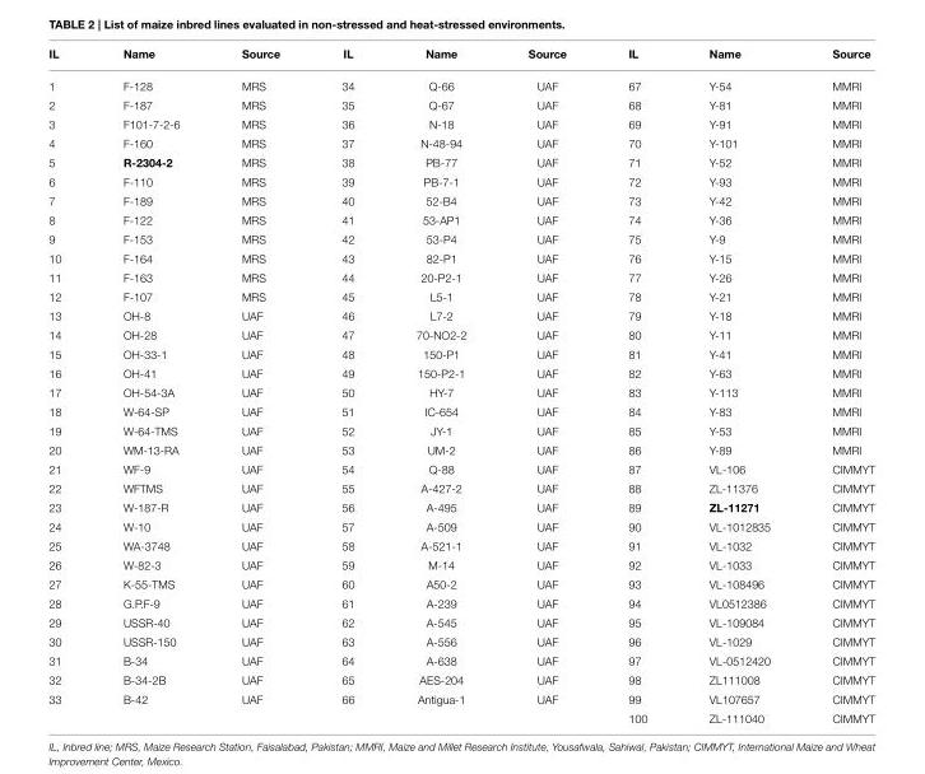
<table><thead><tr><td>IL</td><td>Name</td><td>Source</td><td>IL</td><td>Name</td><td>Source</td><td>IL</td><td>Name</td><td>Source</td></tr></thead><tbody><tr><td>1</td><td>F-128</td><td>MRS</td><td>34</td><td>Q-66</td><td>UAF</td><td>67</td><td>Y-54</td><td>MMRI</td></tr><tr><td>2</td><td>F-187</td><td>MRS</td><td>35</td><td>Q-67</td><td>UAF</td><td>68</td><td>Y-81</td><td>MMRI</td></tr><tr><td>3</td><td>F101-7-2-6</td><td>MRS</td><td>36</td><td>N-18</td><td>UAF</td><td>69</td><td>Y-91</td><td>MMRI</td></tr><tr><td>4</td><td>F-160</td><td>MRS</td><td>37</td><td>N-48-94</td><td>UAF</td><td>70</td><td>Y-101</td><td>MMRI</td></tr><tr><td>5</td><td>R-2304-2</td><td>MRS</td><td>38</td><td>PB-77</td><td>UAF</td><td>71</td><td>Y-52</td><td>MMRI</td></tr><tr><td>6</td><td>F-110</td><td>MRS</td><td>39</td><td>PB-7-1</td><td>UAF</td><td>72</td><td>Y-93</td><td>MMRI</td></tr><tr><td>7</td><td>F-189</td><td>MRS</td><td>40</td><td>52-B4</td><td>UAF</td><td>73</td><td>Y-42</td><td>MMRI</td></tr><tr><td>8</td><td>F-122</td><td>MRS</td><td>41</td><td>53-AP1</td><td>UAF</td><td>74</td><td>Y-36</td><td>MMRI</td></tr><tr><td>9</td><td>F-153</td><td>MRS</td><td>42</td><td>53-P4</td><td>UAF</td><td>75</td><td>Y-9</td><td>MMRI</td></tr><tr><td>10</td><td>F-164</td><td>MRS</td><td>43</td><td>82-P1</td><td>UAF</td><td>76</td><td>Y-15</td><td>MMRI</td></tr><tr><td>11</td><td>F-163</td><td>MRS</td><td>44</td><td>20-P2-1</td><td>UAF</td><td>77</td><td>Y-26</td><td>MMRI</td></tr><tr><td>12</td><td>F-107</td><td>MRS</td><td>45</td><td>L5-1</td><td>UAF</td><td>78</td><td>Y-21</td><td>MMRI</td></tr><tr><td>13</td><td>OH-8</td><td>UAF</td><td>46</td><td>L7-2</td><td>UAF</td><td>79</td><td>Y-18</td><td>MMRI</td></tr><tr><td>14</td><td>OH-28</td><td>UAF</td><td>47</td><td>70-NO2-2</td><td>UAF</td><td>80</td><td>Y-11</td><td>MMRI</td></tr><tr><td>15</td><td>OH-33-1</td><td>UAF</td><td>48</td><td>150-P1</td><td>UAF</td><td>81</td><td>Y-41</td><td>MMRI</td></tr><tr><td>16</td><td>OH-41</td><td>UAF</td><td>49</td><td>150-P2-1</td><td>UAF</td><td>82</td><td>Y-63</td><td>MMRI</td></tr><tr><td>17</td><td>OH-54-3A</td><td>UAF</td><td>50</td><td>HY-7</td><td>UAF</td><td>83</td><td>Y-113</td><td>MMRI</td></tr><tr><td>18</td><td>W-64-SP</td><td>UAF</td><td>51</td><td>IC-654</td><td>UAF</td><td>84</td><td>Y-83</td><td>MMRI</td></tr><tr><td>19</td><td>W-64-TMS</td><td>UAF</td><td>52</td><td>JY-1</td><td>UAF</td><td>85</td><td>Y-53</td><td>MMRI</td></tr><tr><td>20</td><td>WM-13-RA</td><td>UAF</td><td>53</td><td>UM-2</td><td>UAF</td><td>86</td><td>Y-89</td><td>MMRI</td></tr><tr><td>21</td><td>WF-9</td><td>UAF</td><td>54</td><td>Q-88</td><td>UAF</td><td>87</td><td>VL-106</td><td>CIMMYT</td></tr><tr><td>22</td><td>WFTMS</td><td>UAF</td><td>55</td><td>A-427-2</td><td>UAF</td><td>88</td><td>ZL-11376</td><td>CIMMYT</td></tr><tr><td>23</td><td>W-187-R</td><td>UAF</td><td>56</td><td>A-495</td><td>UAF</td><td>89</td><td>ZL-11271</td><td>CIMMYT</td></tr><tr><td>24</td><td>W-10</td><td>UAF</td><td>57</td><td>A-509</td><td>UAF</td><td>90</td><td>VL-1012835</td><td>CIMMYT</td></tr><tr><td>25</td><td>WA-3748</td><td>UAF</td><td>58</td><td>A-521-1</td><td>UAF</td><td>91</td><td>VL-1032</td><td>CIMMYT</td></tr><tr><td>26</td><td>W-82-3</td><td>UAF</td><td>59</td><td>M-14</td><td>UAF</td><td>92</td><td>VL-1033</td><td>CIMMYT</td></tr><tr><td>27</td><td>K-55-TMS</td><td>UAF</td><td>60</td><td>A50-2</td><td>UAF</td><td>93</td><td>VL-108496</td><td>CIMMYT</td></tr><tr><td>28</td><td>G.P.F-9</td><td>UAF</td><td>61</td><td>A-239</td><td>UAF</td><td>94</td><td>VL0512386</td><td>CIMMYT</td></tr><tr><td>29</td><td>USSR-40</td><td>UAF</td><td>62</td><td>A-545</td><td>UAF</td><td>95</td><td>VL-109084</td><td>CIMMYT</td></tr><tr><td>30</td><td>USSR-150</td><td>UAF</td><td>63</td><td>A-556</td><td>UAF</td><td>96</td><td>VL-1029</td><td>CIMMYT</td></tr><tr><td>31</td><td>B-34</td><td>UAF</td><td>64</td><td>A-638</td><td>UAF</td><td>97</td><td>VL-0512420</td><td>CIMMYT</td></tr><tr><td>32</td><td>B-34-2B</td><td>UAF</td><td>65</td><td>AES-204</td><td>UAF</td><td>98</td><td>ZL111008</td><td>CIMMYT</td></tr><tr><td rowspan="2">33</td><td>B-42</td><td>UAF</td><td>66</td><td>Antigua-1</td><td>UAF</td><td>99</td><td>VL107657</td><td>CIMMYT</td></tr><tr><td></td><td></td><td></td><td></td><td></td><td>100</td><td>ZL-111040</td><td>CIMMYT</td></tr></tbody></table>